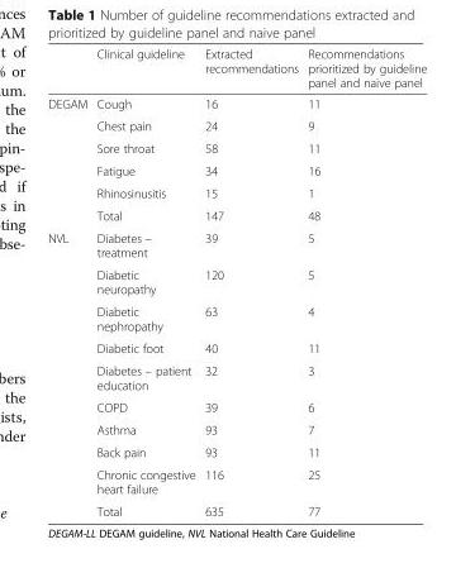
<table><thead><tr><td></td><td>Clinical guideline</td><td>Extracted recommendations</td><td>Recommendations prioritized by guideline panel and naive panel</td></tr></thead><tbody><tr><td rowspan="6">DEGAM</td><td>Cough</td><td>16</td><td>11</td></tr><tr><td>Chest pain</td><td>24</td><td>9</td></tr><tr><td>Sore throat</td><td>58</td><td>11</td></tr><tr><td>Fatigue</td><td>34</td><td>16</td></tr><tr><td>Rhinosinusitis</td><td>15</td><td>1</td></tr><tr><td>Total</td><td>147</td><td>48</td></tr><tr><td rowspan="10">NVL</td><td>Diabetes – treatment</td><td>39</td><td>5</td></tr><tr><td>Diabetic neuropathy</td><td>120</td><td>5</td></tr><tr><td>Diabetic nephropathy</td><td>63</td><td>4</td></tr><tr><td>Diabetic foot</td><td>40</td><td>11</td></tr><tr><td>Diabetes – patient education</td><td>32</td><td>3</td></tr><tr><td>COPD</td><td>39</td><td>6</td></tr><tr><td>Asthma</td><td>93</td><td>7</td></tr><tr><td>Back pain</td><td>93</td><td>11</td></tr><tr><td>Chronic congestive heart failure</td><td>116</td><td>25</td></tr><tr><td>Total</td><td>635</td><td>77</td></tr></tbody></table>